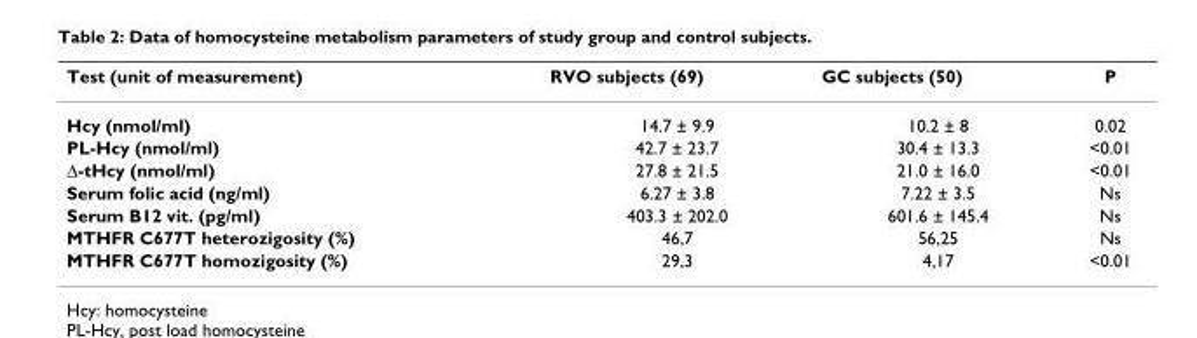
<table><thead><tr><td>Test (unit of measurement)</td><td>RVO subjects (69)</td><td>GC subjects (50)</td><td>P</td></tr></thead><tbody><tr><td>Hcy (nmol/ml)</td><td>14.7 ± 9.9</td><td>10.2 ± 8</td><td>0.02</td></tr><tr><td>PL-Hcy (nmol/ml)</td><td>42.7 ± 23.7</td><td>30.4 ± 13.3</td><td>&lt;0.01</td></tr><tr><td>∆-tHcy (nmol/ml)</td><td>27.8 ± 21.5</td><td>21.0 ± 16.0</td><td>&lt;0.01</td></tr><tr><td>Serum folic acid (ng/ml)</td><td>6.27 ± 3.8</td><td>7.22 ± 3.5</td><td>Ns</td></tr><tr><td>Serum B12 vit. (pg/ml)</td><td>403.3 ± 202.0</td><td>601.6 ± 145.4</td><td>Ns</td></tr><tr><td>MTHFR C677T heterozigosity (%)</td><td>46,7</td><td>56,25</td><td>Ns</td></tr><tr><td>MTHFR C677T homozigosity (%)</td><td>29,3</td><td>4,17</td><td>&lt;0.01</td></tr></tbody></table>